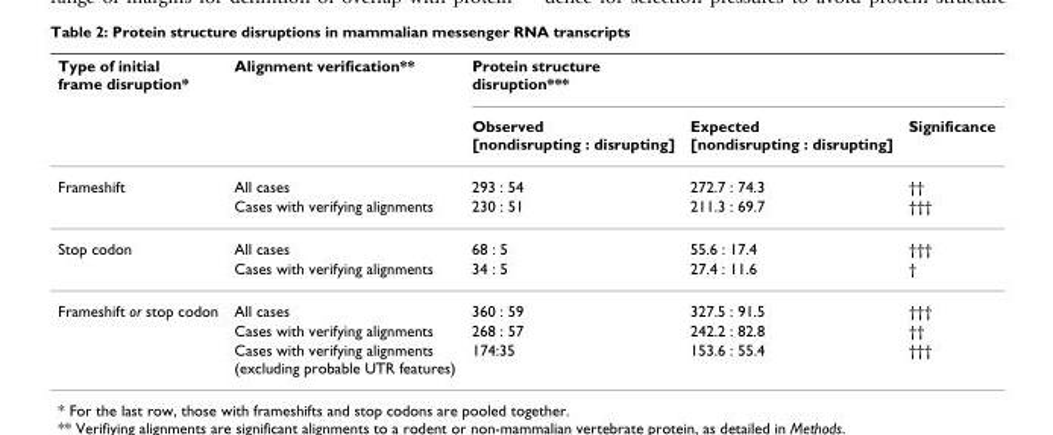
<table><thead><tr><td rowspan="2">Type of initial frame disruption*</td><td rowspan="2">Alignment verification**</td><td rowspan="2">Protein structure disruption*** Observed [nondisrupting : disrupting]</td><td rowspan="2">Expected [nondisrupting : disrupting]</td><td rowspan="2">Significance</td></tr><tr></tr></thead><tbody><tr><td rowspan="2">Frameshift</td><td>All cases</td><td>293 : 54</td><td>272.7 : 74.3</td><td>††</td></tr><tr><td>Cases with verifying alignments</td><td>230 : 51</td><td>211.3 : 69.7</td><td>†††</td></tr><tr><td rowspan="2">Stop codon</td><td>All cases</td><td>68 : 5</td><td>55.6 : 17.4</td><td>†††</td></tr><tr><td>Cases with verifying alignments</td><td>34 : 5</td><td>27.4 : 11.6</td><td>†</td></tr><tr><td rowspan="3">Frameshift or stop codon</td><td>All cases</td><td>360 : 59</td><td>327.5 : 91.5</td><td>†††</td></tr><tr><td>Cases with verifying alignments</td><td>268 : 57</td><td>242.2 : 82.8</td><td>††</td></tr><tr><td>Cases with verifying alignments (excluding probable UTR features)</td><td>174:35</td><td>153.6 : 55.4</td><td>†††</td></tr></tbody></table>